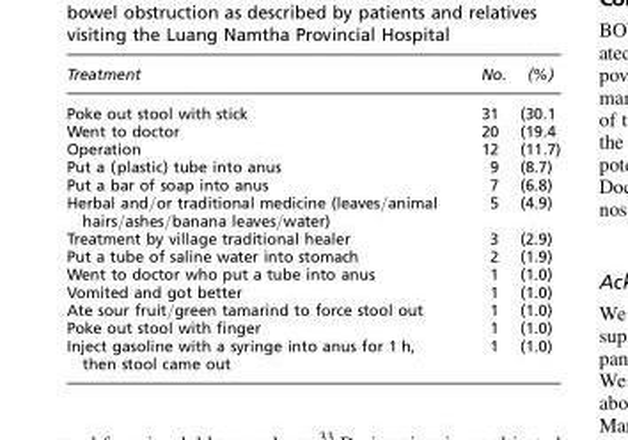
<table><thead><tr><td>Treatment</td><td>No.</td><td>(%)</td></tr></thead><tbody><tr><td>Poke out stool with stick</td><td>31</td><td>(30.1</td></tr><tr><td>Went to doctor</td><td>20</td><td>(19.4</td></tr><tr><td>Operation</td><td>12</td><td>(11.7)</td></tr><tr><td>Put a (plastic) tube into anus</td><td>9</td><td>(8.7)</td></tr><tr><td>Put a bar of soap into anus</td><td>7</td><td>(6.8)</td></tr><tr><td>Herbal and/or traditional medicine (leaves/animal hairs/ashes/banana leaves/water)</td><td>5</td><td>(4.9)</td></tr><tr><td>Treatment by village traditional healer</td><td>3</td><td>(2.9)</td></tr><tr><td>Put a tube of saline water into stomach</td><td>2</td><td>(1.9)</td></tr><tr><td>Went to doctor who put a tube into anus</td><td>1</td><td>(1.0)</td></tr><tr><td>Vomited and got better</td><td>1</td><td>(1.0)</td></tr><tr><td>Ate sour fruit/green tamarind to force stool out</td><td>1</td><td>(1.0)</td></tr><tr><td>Poke out stool with finger</td><td>1</td><td>(1.0)</td></tr><tr><td>Inject gasoline with a syringe into anus for 1 h, then stool came out</td><td>1</td><td>(1.0)</td></tr></tbody></table>